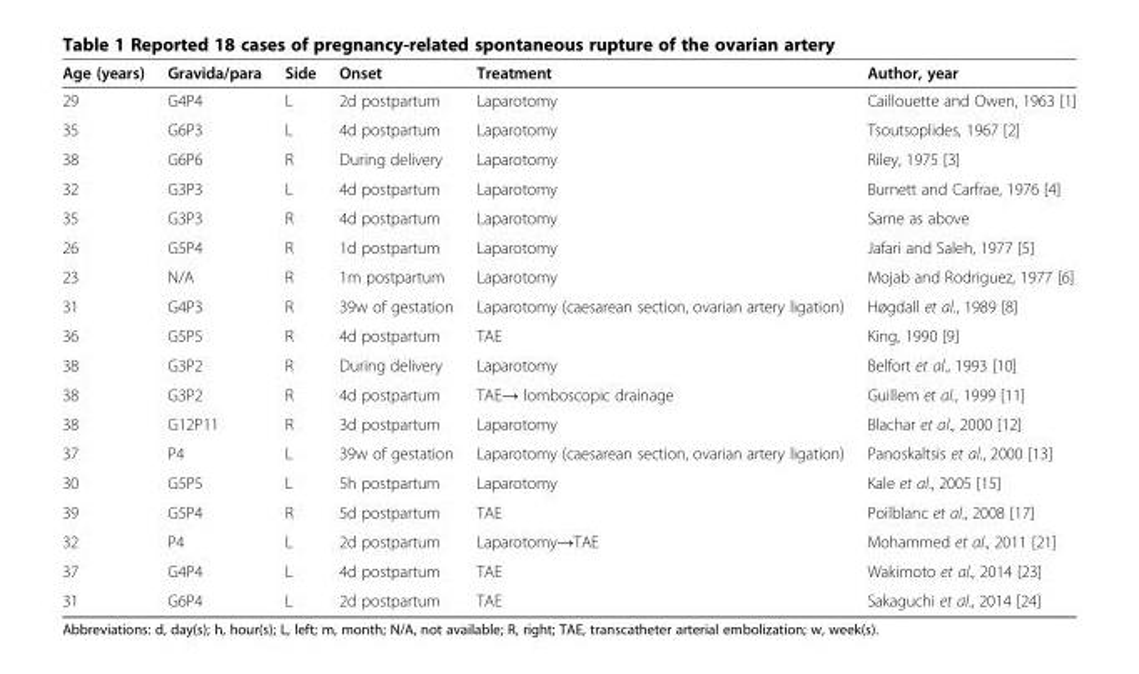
<table><thead><tr><td>Age (years)</td><td>Gravida/para</td><td>Side</td><td>Onset</td><td>Treatment</td><td>Author, year</td></tr></thead><tbody><tr><td>29</td><td>G4P4</td><td>L</td><td>2d postpartum</td><td>Laparotomy</td><td>Caillouette and Owen, 1963 [1]</td></tr><tr><td>35</td><td>G6P3</td><td>L</td><td>4d postpartum</td><td>Laparotomy</td><td>Tsoutsoplides, 1967 [2]</td></tr><tr><td>38</td><td>G6P6</td><td>R</td><td>During delivery</td><td>Laparotomy</td><td>Riley, 1975 [3]</td></tr><tr><td>32</td><td>G3P3</td><td>L</td><td>4d postpartum</td><td>Laparotomy</td><td>Burnett and Carfrae, 1976 [4]</td></tr><tr><td>35</td><td>G3P3</td><td>R</td><td>4d postpartum</td><td>Laparotomy</td><td>Same as above</td></tr><tr><td>26</td><td>G5P4</td><td>R</td><td>1d postpartum</td><td>Laparotomy</td><td>Jafari and Saleh, 1977 [5]</td></tr><tr><td>23</td><td>N/A</td><td>R</td><td>1m postpartum</td><td>Laparotomy</td><td>Mojab and Rodriguez, 1977 [6]</td></tr><tr><td>31</td><td>G4P3</td><td>R</td><td>39w of gestation</td><td>Laparotomy (caesarean section, ovarian artery ligation)</td><td>Høgdall et al., 1989 [8]</td></tr><tr><td>36</td><td>G5P5</td><td>R</td><td>4d postpartum</td><td>TAE</td><td>King, 1990 [9]</td></tr><tr><td>38</td><td>G3P2</td><td>R</td><td>During delivery</td><td>Laparotomy</td><td>Belfort et al., 1993 [10]</td></tr><tr><td>38</td><td>G3P2</td><td>R</td><td>4d postpartum</td><td>TAE→ lomboscopic drainage</td><td>Guillem et al., 1999 [11]</td></tr><tr><td>38</td><td>G12P11</td><td>R</td><td>3d postpartum</td><td>Laparotomy</td><td>Blachar et al., 2000 [12]</td></tr><tr><td>37</td><td>P4</td><td>L</td><td>39w of gestation</td><td>Laparotomy (caesarean section, ovarian artery ligation)</td><td>Panoskaltsis et al., 2000 [13]</td></tr><tr><td>30</td><td>G5P5</td><td>L</td><td>5h postpartum</td><td>Laparotomy</td><td>Kale et al., 2005 [15]</td></tr><tr><td>39</td><td>G5P4</td><td>R</td><td>5d postpartum</td><td>TAE</td><td>Poilblanc et al., 2008 [17]</td></tr><tr><td>32</td><td>P4</td><td>L</td><td>2d postpartum</td><td>Laparotomy→TAE</td><td>Mohammed et al., 2011 [21]</td></tr><tr><td>37</td><td>G4P4</td><td>L</td><td>4d postpartum</td><td>TAE</td><td>Wakimoto et al., 2014 [23]</td></tr><tr><td>31</td><td>G6P4</td><td>L</td><td>2d postpartum</td><td>TAE</td><td>Sakaguchi et al., 2014 [24]</td></tr></tbody></table>